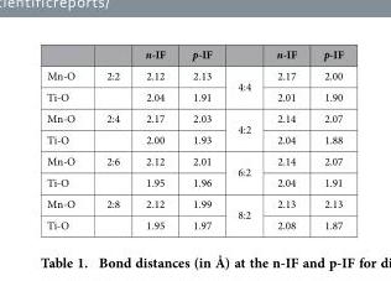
<table><thead><tr><td></td><td></td><td>n-IF</td><td>p-IF</td><td></td><td>n-IF</td><td>p-IF</td></tr></thead><tbody><tr><td>Mn-O</td><td>2:2</td><td>2.12</td><td>2.13</td><td rowspan="2">4:4</td><td>2.17</td><td>2.00</td></tr><tr><td>Ti-O</td><td></td><td>2.04</td><td>1.91</td><td>2.01</td><td>1.90</td></tr><tr><td>Mn-O</td><td>2:4</td><td>2.17</td><td>2.03</td><td rowspan="2">4:2</td><td>2.14</td><td>2.07</td></tr><tr><td>Ti-O</td><td></td><td>2.00</td><td>1.93</td><td>2.04</td><td>1.88</td></tr><tr><td>Mn-O</td><td>2:6</td><td>2.12</td><td>2.01</td><td rowspan="2">6:2</td><td>2.14</td><td>2.07</td></tr><tr><td>Ti-O</td><td></td><td>1.95</td><td>1.96</td><td>2.04</td><td>1.91</td></tr><tr><td>Mn-O</td><td>2:8</td><td>2.12</td><td>1.99</td><td rowspan="2">8:2</td><td>2.13</td><td>2.13</td></tr><tr><td>Ti-O</td><td></td><td>1.95</td><td>1.97</td><td>2.08</td><td>1.87</td></tr></tbody></table>